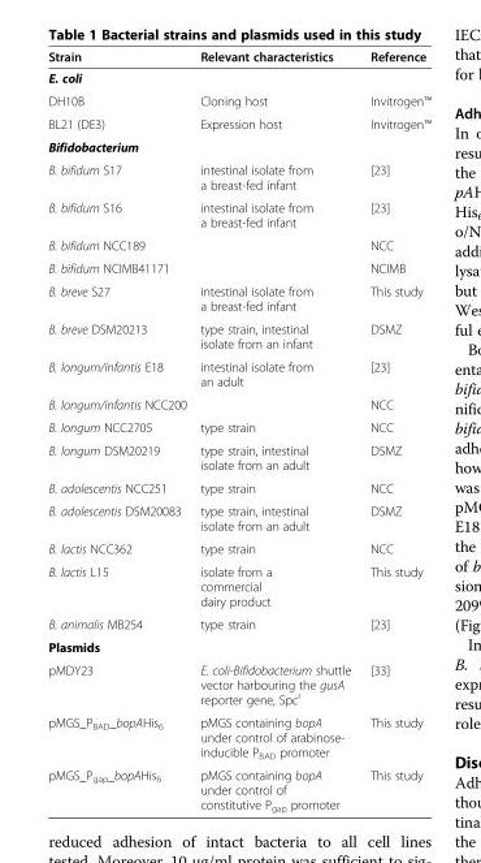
<table><thead><tr><td>Strain</td><td>Relevant characteristics</td><td>Reference</td></tr></thead><tbody><tr><td colspan="3">E. coli</td></tr><tr><td>DH10B</td><td>Cloning host</td><td>Invitrogen™</td></tr><tr><td>BL21 (DE3)</td><td>Expression host</td><td>Invitrogen™</td></tr><tr><td colspan="3">Bifidobacterium</td></tr><tr><td>B. bifidum S17</td><td>intestinal isolate from a breast-fed infant</td><td>[23]</td></tr><tr><td>B. bifidum S16</td><td>intestinal isolate from a breast-fed infant</td><td>[23]</td></tr><tr><td>B. bifidum NCC189</td><td></td><td>NCC</td></tr><tr><td>B. bifidum NCIMB41171</td><td></td><td>NCIMB</td></tr><tr><td>B. breve S27</td><td>intestinal isolate from a breast-fed infant</td><td>This study</td></tr><tr><td>B. breve DSM20213</td><td>type strain, intestinal isolate from an infant</td><td>DSMZ</td></tr><tr><td>B. longum/infantis E18</td><td>intestinal isolate from an adult</td><td>[23]</td></tr><tr><td colspan="2">B. longum/infantis NCC200</td><td>NCC</td></tr><tr><td>B. longum NCC2705</td><td>type strain</td><td>NCC</td></tr><tr><td>B. longum DSM20219</td><td>type strain, intestinal isolate from an adult</td><td>DSMZ</td></tr><tr><td>B. adolescentis NCC251</td><td>type strain</td><td>NCC</td></tr><tr><td>B. adolescentis DSM20083</td><td>type strain, intestinal isolate from an adult</td><td>DSMZ</td></tr><tr><td>B. lactis NCC362</td><td>type strain</td><td>NCC</td></tr><tr><td>B. lactis L15</td><td>isolate from a commercial dairy product</td><td>This study</td></tr><tr><td>B. animalis MB254</td><td>type strain</td><td>[23]</td></tr><tr><td colspan="3">Plasmids</td></tr><tr><td>pMDY23</td><td>E. coli-Bifidobacterium shuttle vector harbouring the gusA reporter gene, Spc<sup>r</sup></td><td>[33]</td></tr><tr><td>pMGS_PBAD_bopAHis6</td><td>pMGS containing bopA under control of arabinose- inducible P<sub>BAD</sub> promoter</td><td>This study</td></tr><tr><td>pMGS_Pgap_bopAHis6</td><td>pMGS containing bopA under control of constitutive P<sub>gap</sub> promoter</td><td>This study</td></tr></tbody></table>